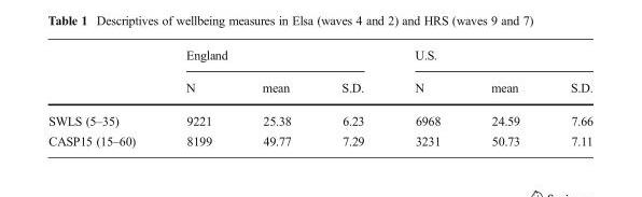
<table><thead><tr><td rowspan="2"></td><td colspan="3">England</td><td colspan="3">U.S.</td></tr><tr><td>N</td><td>mean</td><td>S.D.</td><td>N</td><td>mean</td><td>S.D.</td></tr></thead><tbody><tr><td>SWLS (5–35)</td><td>9221</td><td>25.38</td><td>6.23</td><td>6968</td><td>24.59</td><td>7.66</td></tr><tr><td>CASP15 (15–60)</td><td>8199</td><td>49.77</td><td>7.29</td><td>3231</td><td>50.73</td><td>7.11</td></tr></tbody></table>